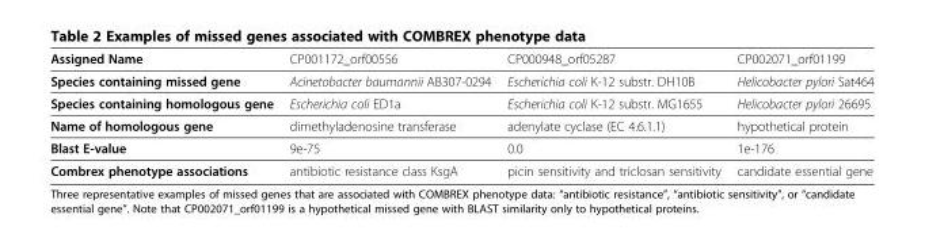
<table><thead><tr><td>Assigned Name</td><td>CP001172_orf00556</td><td>CP000948_orf05287</td><td>CP002071_orf01199</td></tr></thead><tbody><tr><td>Species containing missed gene</td><td>Acinetobacter baumannii AB307-0294</td><td>Escherichia coli K-12 substr. DH10B</td><td>Helicobacter pylori Sat464</td></tr><tr><td>Species containing homologous gene</td><td>Escherichia coli ED1a</td><td>Escherichia coli K-12 substr. MG1655</td><td>Helicobacter pylori 26695</td></tr><tr><td>Name of homologous gene</td><td>dimethyladenosine transferase</td><td>adenylate cyclase (EC 4.6.1.1)</td><td>hypothetical protein</td></tr><tr><td>Blast E-value</td><td>9e-75</td><td>0.0</td><td>1e-176</td></tr><tr><td>Combrex phenotype associations</td><td>antibiotic resistance class KsgA</td><td>picin sensitivity and triclosan sensitivity</td><td>candidate essential gene</td></tr></tbody></table>